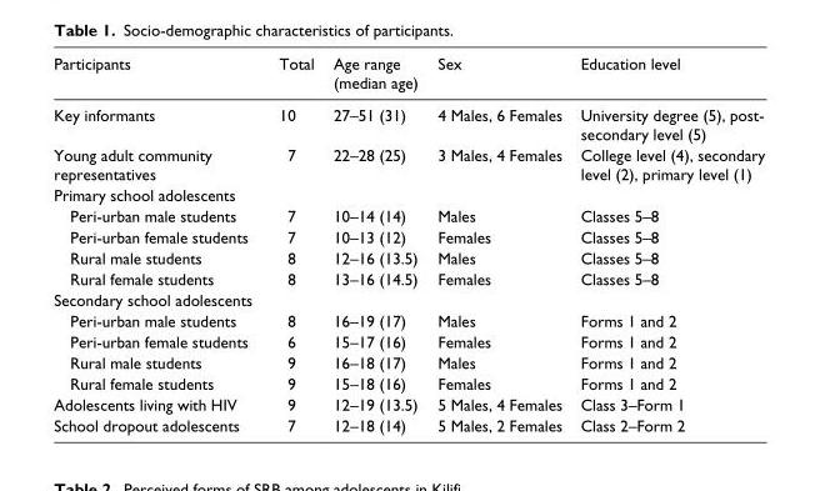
<table><thead><tr><td>Participants</td><td>Total</td><td>Age range (median age)</td><td>Sex</td><td>Education level</td></tr></thead><tbody><tr><td>Key informants</td><td>10</td><td>27–51 (31)</td><td>4 Males, 6 Females</td><td>University degree (5), post- secondary level (5)</td></tr><tr><td>Young adult community representatives</td><td>7</td><td>22–28 (25)</td><td>3 Males, 4 Females</td><td>College level (4), secondary level (2), primary level (1)</td></tr><tr><td colspan="5">Primary school adolescents</td></tr><tr><td>Peri-urban male students</td><td>7</td><td>10–14 (14)</td><td>Males</td><td>Classes 5–8</td></tr><tr><td>Peri-urban female students</td><td>7</td><td>10–13 (12)</td><td>Females</td><td>Classes 5–8</td></tr><tr><td>Rural male students</td><td>8</td><td>12–16 (13.5)</td><td>Males</td><td>Classes 5–8</td></tr><tr><td>Rural female students</td><td>8</td><td>13–16 (14.5)</td><td>Females</td><td>Classes 5–8</td></tr><tr><td colspan="5">Secondary school adolescents</td></tr><tr><td>Peri-urban male students</td><td>8</td><td>16–19 (17)</td><td>Males</td><td>Forms 1 and 2</td></tr><tr><td>Peri-urban female students</td><td>6</td><td>15–17 (16)</td><td>Females</td><td>Forms 1 and 2</td></tr><tr><td>Rural male students</td><td>9</td><td>16–18 (17)</td><td>Males</td><td>Forms 1 and 2</td></tr><tr><td>Rural female students</td><td>9</td><td>15–18 (16)</td><td>Females</td><td>Forms 1 and 2</td></tr><tr><td>Adolescents living with HIV</td><td>9</td><td>12–19 (13.5)</td><td>5 Males, 4 Females</td><td>Class 3–Form 1</td></tr><tr><td>School dropout adolescents</td><td>7</td><td>12–18 (14)</td><td>5 Males, 2 Females</td><td>Class 2–Form 2</td></tr></tbody></table>